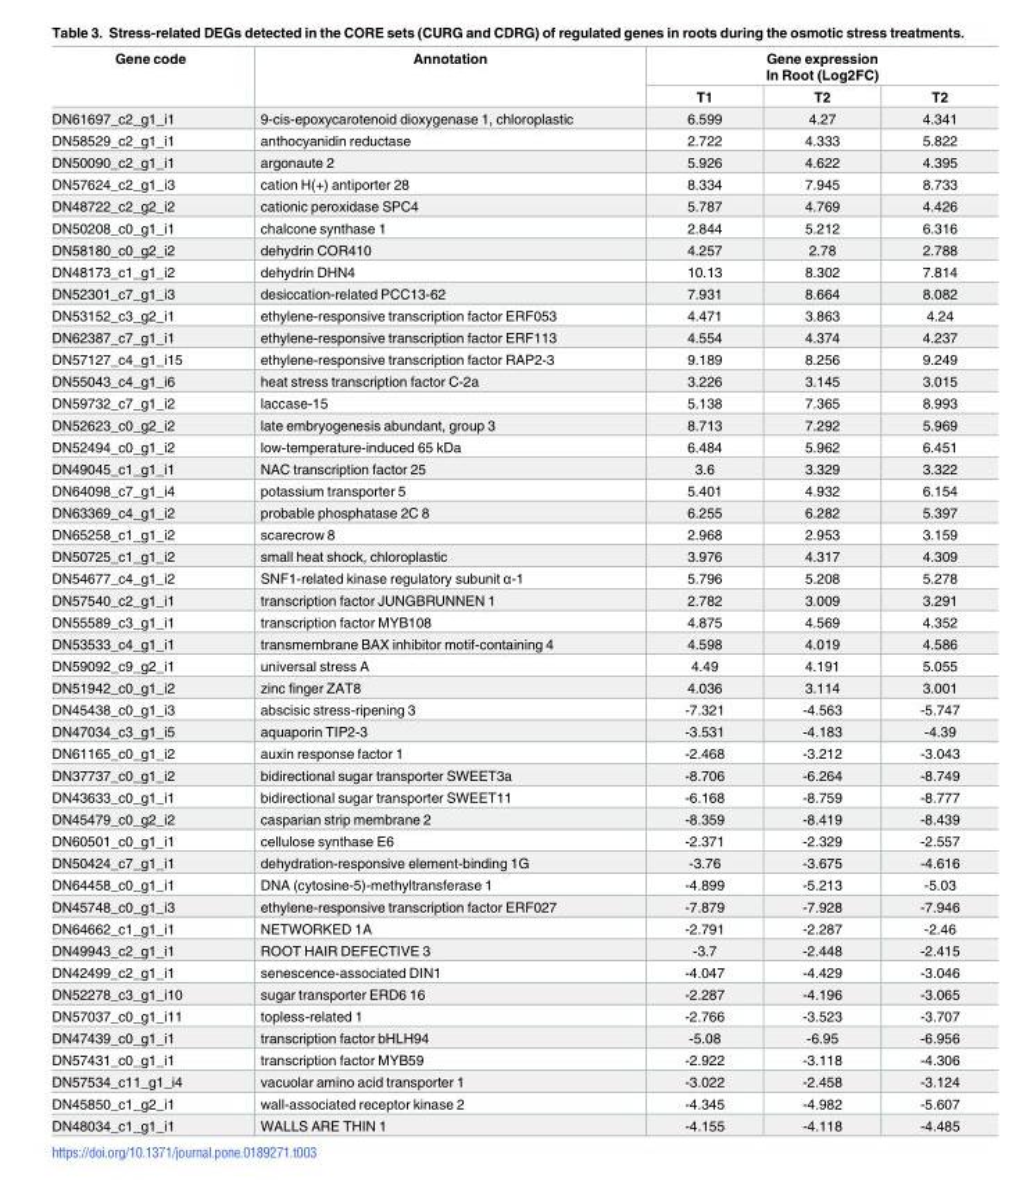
<table><thead><tr><td rowspan="2">Gene code DN61697_c2_g1_i1</td><td rowspan="2">Annotation 9-cis-epoxycarotenoid dioxygenase 1, chloroplastic</td><td colspan="3">Gene expression In Root (Log2FC) T1 T2 T2</td></tr><tr><td>6.599</td><td>4.27</td><td>4.341</td></tr></thead><tbody><tr><td>DN58529_c2_g1_i1</td><td>anthocyanidin reductase</td><td>2.722</td><td>4.333</td><td>5.822</td></tr><tr><td>DN50090_c2_g1_i1</td><td>argonaute 2</td><td>5.926</td><td>4.622</td><td>4.395</td></tr><tr><td>DN57624_c2_g1_i3</td><td>cation H(+) antiporter 28</td><td>8.334</td><td>7.945</td><td>8.733</td></tr><tr><td>DN48722_c2_g2_i2</td><td>cationic peroxidase SPC4</td><td>5.787</td><td>4.769</td><td>4.426</td></tr><tr><td>DN50208_c0_g1_i1</td><td>chalcone synthase 1</td><td>2.844</td><td>5.212</td><td>6.316</td></tr><tr><td>DN58180_c0_g2_i2</td><td>dehydrin COR410</td><td>4.257</td><td>2.78</td><td>2.788</td></tr><tr><td>DN48173_c1_g1_i2</td><td>dehydrin DHN4</td><td>10.13</td><td>8.302</td><td>7.814</td></tr><tr><td>DN52301_c7_g1_i3</td><td>desiccation-related PCC13-62</td><td>7.931</td><td>8.664</td><td>8.082</td></tr><tr><td>DN53152_c3_g2_i1</td><td>ethylene-responsive transcription factor ERF053</td><td>4.471</td><td>3.863</td><td>4.24</td></tr><tr><td>DN62387_c7_g1_i1</td><td>ethylene-responsive transcription factor ERF113</td><td>4.554</td><td>4.374</td><td>4.237</td></tr><tr><td>DN57127_c4_g1_i15</td><td>ethylene-responsive transcription factor RAP2-3</td><td>9.189</td><td>8.256</td><td>9.249</td></tr><tr><td>DN55043_c4_g1_i6</td><td>heat stress transcription factor C-2a</td><td>3.226</td><td>3.145</td><td>3.015</td></tr><tr><td>DN59732_c7_g1_i2</td><td>laccase-15</td><td>5.138</td><td>7.365</td><td>8.993</td></tr><tr><td>DN52623_c0_g2_i2</td><td>late embryogenesis abundant, group 3</td><td>8.713</td><td>7.292</td><td>5.969</td></tr><tr><td>DN52494_c0_g1_i2</td><td>low-temperature-induced 65 kDa</td><td>6.484</td><td>5.962</td><td>6.451</td></tr><tr><td>DN49045_c1_g1_i1</td><td>NAC transcription factor 25</td><td>3.6</td><td>3.329</td><td>3.322</td></tr><tr><td>DN64098_c7_g1_i4</td><td>potassium transporter 5</td><td>5.401</td><td>4.932</td><td>6.154</td></tr><tr><td>DN63369_c4_g1_i2</td><td>probable phosphatase 2C 8</td><td>6.255</td><td>6.282</td><td>5.397</td></tr><tr><td>DN65258_c1_g1_i2</td><td>scarecrow 8</td><td>2.968</td><td>2.953</td><td>3.159</td></tr><tr><td>DN50725_c1_g1_i2</td><td>small heat shock, chloroplastic</td><td>3.976</td><td>4.317</td><td>4.309</td></tr><tr><td>DN54677_c4_g1_i2</td><td>SNF1-related kinase regulatory subunit α-1</td><td>5.796</td><td>5.208</td><td>5.278</td></tr><tr><td>DN57540_c2_g1_i1</td><td>transcription factor JUNGBRUNNEN 1</td><td>2.782</td><td>3.009</td><td>3.291</td></tr><tr><td>DN55589_c3_g1_i1</td><td>transcription factor MYB108</td><td>4.875</td><td>4.569</td><td>4.352</td></tr><tr><td>DN53533_c4_g1_i1</td><td>transmembrane BAX inhibitor motif-containing 4</td><td>4.598</td><td>4.019</td><td>4.586</td></tr><tr><td>DN59092_c9_g2_i1</td><td>universal stress A</td><td>4.49</td><td>4.191</td><td>5.055</td></tr><tr><td>DN51942_c0_g1_i2</td><td>zinc finger ZAT8</td><td>4.036</td><td>3.114</td><td>3.001</td></tr><tr><td>DN45438_c0_g1_i3</td><td>abscisic stress-ripening 3</td><td>-7.321</td><td>-4.563</td><td>-5.747</td></tr><tr><td>DN47034_c3_g1_i5</td><td>aquaporin TIP2-3</td><td>-3.531</td><td>-4.183</td><td>-4.39</td></tr><tr><td>DN61165_c0_g1_i2</td><td>auxin response factor 1</td><td>-2.468</td><td>-3.212</td><td>-3.043</td></tr><tr><td>DN37737_c0_g1_i2</td><td>bidirectional sugar transporter SWEET3a</td><td>-8.706</td><td>-6.264</td><td>-8.749</td></tr><tr><td>DN43633_c0_g1_i1</td><td>bidirectional sugar transporter SWEET11</td><td>-6.168</td><td>-8.759</td><td>-8.777</td></tr><tr><td>DN45479_c0_g2_i2</td><td>casparian strip membrane 2</td><td>-8.359</td><td>-8.419</td><td>-8.439</td></tr><tr><td>DN60501_c0_g1_i1</td><td>cellulose synthase E6</td><td>-2.371</td><td>-2.329</td><td>-2.557</td></tr><tr><td>DN50424_c7_g1_i1</td><td>dehydration-responsive element-binding 1G</td><td>-3.76</td><td>-3.675</td><td>-4.616</td></tr><tr><td>DN64458_c0_g1_i1</td><td>DNA (cytosine-5)-methyltransferase 1</td><td>-4.899</td><td>-5.213</td><td>-5.03</td></tr><tr><td>DN45748_c0_g1_i3</td><td>ethylene-responsive transcription factor ERF027</td><td>-7.879</td><td>-7.928</td><td>-7.946</td></tr><tr><td>DN64662_c1_g1_i1</td><td>NETWORKED 1A</td><td>-2.791</td><td>-2.287</td><td>-2.46</td></tr><tr><td>DN49943_c2_g1_i1</td><td>ROOT HAIR DEFECTIVE 3</td><td>-3.7</td><td>-2.448</td><td>-2.415</td></tr><tr><td>DN42499_c2_g1_i1</td><td>senescence-associated DIN1</td><td>-4.047</td><td>-4.429</td><td>-3.046</td></tr><tr><td>DN52278_c3_g1_i10</td><td>sugar transporter ERD6 16</td><td>-2.287</td><td>-4.196</td><td>-3.065</td></tr><tr><td>DN57037_c0_g1_i11</td><td>topless-related 1</td><td>-2.766</td><td>-3.523</td><td>-3.707</td></tr><tr><td>DN47439_c0_g1_i1</td><td>transcription factor bHLH94</td><td>-5.08</td><td>-6.95</td><td>-6.956</td></tr><tr><td>DN57431_c0_g1_i1</td><td>transcription factor MYB59</td><td>-2.922</td><td>-3.118</td><td>-4.306</td></tr><tr><td>DN57534_c11_g1_i4</td><td>vacuolar amino acid transporter 1</td><td>-3.022</td><td>-2.458</td><td>-3.124</td></tr><tr><td>DN45850_c1_g2_i1</td><td>wall-associated receptor kinase 2</td><td>-4.345</td><td>-4.982</td><td>-5.607</td></tr><tr><td>DN48034_c1_g1_i1</td><td>WALLS ARE THIN 1</td><td>-4.155</td><td>-4.118</td><td>-4.485</td></tr></tbody></table>